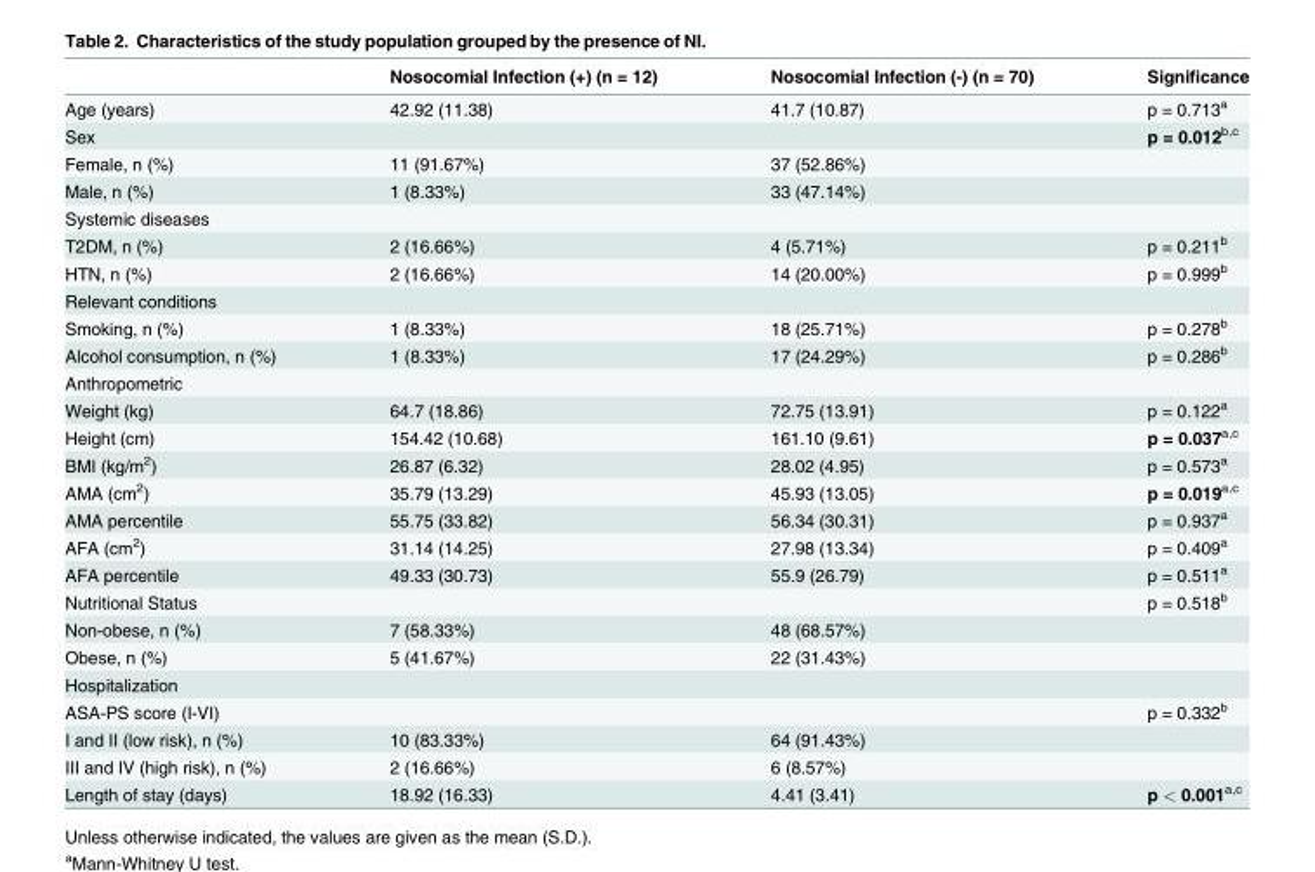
<table><thead><tr><td></td><td>Nosocomial Infection (+) (n = 12)</td><td>Nosocomial Infection (-) (n = 70)</td><td>Significance</td></tr></thead><tbody><tr><td>Age (years)</td><td>42.92 (11.38)</td><td>41.7 (10.87)</td><td>p = 0.713<sup>a</sup></td></tr><tr><td>Sex</td><td></td><td></td><td>p = 0.012<sup>b,c</sup></td></tr><tr><td>Female, n (%)</td><td>11 (91.67%)</td><td>37 (52.86%)</td><td></td></tr><tr><td>Male, n (%)</td><td>1 (8.33%)</td><td>33 (47.14%)</td><td></td></tr><tr><td colspan="4">Systemic diseases</td></tr><tr><td>T2DM, n (%)</td><td>2 (16.66%)</td><td>4 (5.71%)</td><td>p = 0.211<sup>b</sup></td></tr><tr><td>HTN, n (%)</td><td>2 (16.66%)</td><td>14 (20.00%)</td><td>p = 0.999<sup>b</sup></td></tr><tr><td colspan="4">Relevant conditions</td></tr><tr><td>Smoking, n (%)</td><td>1 (8.33%)</td><td>18 (25.71%)</td><td>p = 0.278<sup>b</sup></td></tr><tr><td>Alcohol consumption, n (%)</td><td>1 (8.33%)</td><td>17 (24.29%)</td><td>p = 0.286<sup>b</sup></td></tr><tr><td colspan="4">Anthropometric</td></tr><tr><td>Weight (kg)</td><td>64.7 (18.86)</td><td>72.75 (13.91)</td><td>p = 0.122<sup>a</sup></td></tr><tr><td>Height (cm)</td><td>154.42 (10.68)</td><td>161.10 (9.61)</td><td>p = 0.037<sup>a,c</sup></td></tr><tr><td>BMI (kg/m<sup>2</sup>)</td><td>26.87 (6.32)</td><td>28.02 (4.95)</td><td>p = 0.573<sup>a</sup></td></tr><tr><td>AMA (cm<sup>2</sup>)</td><td>35.79 (13.29)</td><td>45.93 (13.05)</td><td>p = 0.019<sup>a,c</sup></td></tr><tr><td>AMA percentile</td><td>55.75 (33.82)</td><td>56.34 (30.31)</td><td>p = 0.937<sup>a</sup></td></tr><tr><td>AFA (cm<sup>2</sup>)</td><td>31.14 (14.25)</td><td>27.98 (13.34)</td><td>p = 0.409<sup>a</sup></td></tr><tr><td>AFA percentile</td><td>49.33 (30.73)</td><td>55.9 (26.79)</td><td>p = 0.511<sup>a</sup></td></tr><tr><td>Nutritional Status</td><td></td><td></td><td>p = 0.518<sup>b</sup></td></tr><tr><td>Non-obese, n (%)</td><td>7 (58.33%)</td><td>48 (68.57%)</td><td></td></tr><tr><td>Obese, n (%)</td><td>5 (41.67%)</td><td>22 (31.43%)</td><td></td></tr><tr><td colspan="4">Hospitalization</td></tr><tr><td>ASA-PS score (I-VI)</td><td></td><td></td><td>p = 0.332<sup>b</sup></td></tr><tr><td>I and II (low risk), n (%)</td><td>10 (83.33%)</td><td>64 (91.43%)</td><td></td></tr><tr><td>III and IV (high risk), n (%)</td><td>2 (16.66%)</td><td>6 (8.57%)</td><td></td></tr><tr><td>Length of stay (days)</td><td>18.92 (16.33)</td><td>4.41 (3.41)</td><td>p &lt; 0.001<sup>a,c</sup></td></tr></tbody></table>